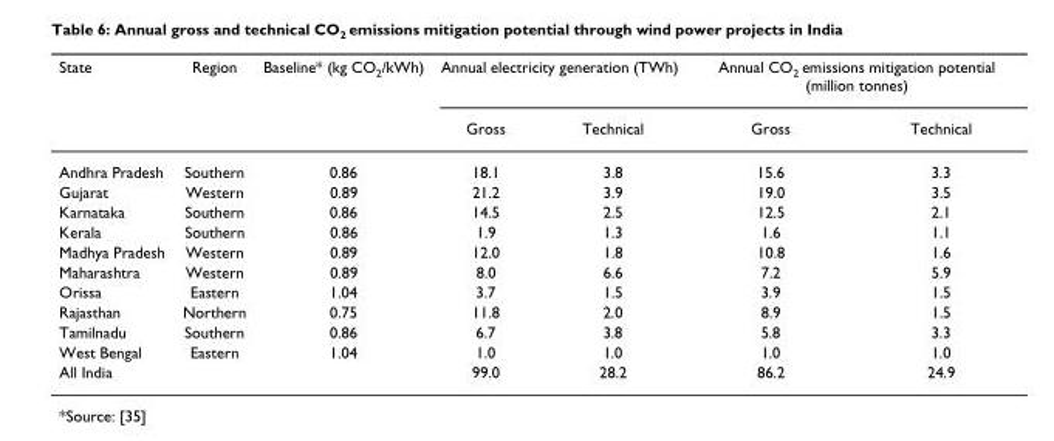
<table><thead><tr><td rowspan="2">State</td><td rowspan="2">Region</td><td rowspan="2">Baseline* (kg CO<sub>2</sub>/kWh)</td><td colspan="2">Annual electricity generation (TWh)</td><td colspan="2">Annual CO<sub>2</sub> emissions mitigation potential (million tonnes)</td></tr><tr><td>Gross</td><td>Technical</td><td>Gross</td><td>Technical</td></tr></thead><tbody><tr><td>Andhra Pradesh</td><td>Southern</td><td>0.86</td><td>18.1</td><td>3.8</td><td>15.6</td><td>3.3</td></tr><tr><td>Gujarat</td><td>Western</td><td>0.89</td><td>21.2</td><td>3.9</td><td>19.0</td><td>3.5</td></tr><tr><td>Karnataka</td><td>Southern</td><td>0.86</td><td>14.5</td><td>2.5</td><td>12.5</td><td>2.1</td></tr><tr><td>Kerala</td><td>Southern</td><td>0.86</td><td>1.9</td><td>1.3</td><td>1.6</td><td>1.1</td></tr><tr><td>Madhya Pradesh</td><td>Western</td><td>0.89</td><td>12.0</td><td>1.8</td><td>10.8</td><td>1.6</td></tr><tr><td>Maharashtra</td><td>Western</td><td>0.89</td><td>8.0</td><td>6.6</td><td>7.2</td><td>5.9</td></tr><tr><td>Orissa</td><td>Eastern</td><td>1.04</td><td>3.7</td><td>1.5</td><td>3.9</td><td>1.5</td></tr><tr><td>Rajasthan</td><td>Northern</td><td>0.75</td><td>11.8</td><td>2.0</td><td>8.9</td><td>1.5</td></tr><tr><td>Tamilnadu</td><td>Southern</td><td>0.86</td><td>6.7</td><td>3.8</td><td>5.8</td><td>3.3</td></tr><tr><td>West Bengal</td><td>Eastern</td><td>1.04</td><td>1.0</td><td>1.0</td><td>1.0</td><td>1.0</td></tr><tr><td>All India</td><td></td><td></td><td>99.0</td><td>28.2</td><td>86.2</td><td>24.9</td></tr></tbody></table>